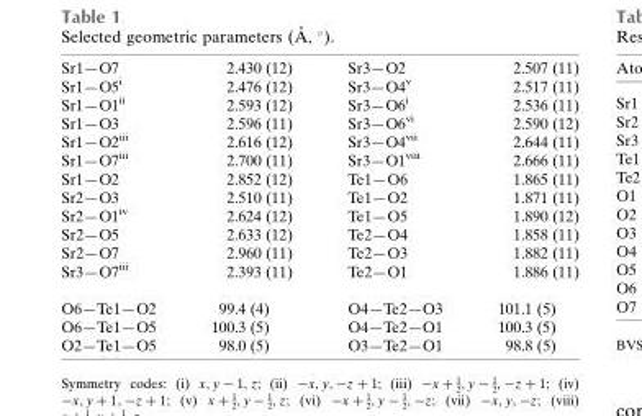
<table><tbody><tr><td>Sr1—O7</td><td>2.430 (12)</td><td>Sr3—O2</td><td>2.507 (11)</td></tr><tr><td>Sr1—O5<sup>i</sup></td><td>2.476 (12)</td><td>Sr3—O4<sup>v</sup></td><td>2.517 (11)</td></tr><tr><td>Sr1—O1<sup>ii</sup></td><td>2.593 (12)</td><td>Sr3—O6<sup>i</sup></td><td>2.536 (11)</td></tr><tr><td>Sr1—O3</td><td>2.596 (11)</td><td>Sr3—O6<sup>vi</sup></td><td>2.590 (12)</td></tr><tr><td>Sr1—O2<sup>iii</sup></td><td>2.616 (12)</td><td>Sr3—O4<sup>vii</sup></td><td>2.644 (11)</td></tr><tr><td>Sr1—O7<sup>iii</sup></td><td>2.700 (11)</td><td>Sr3—O1<sup>viii</sup></td><td>2.666 (11)</td></tr><tr><td>Sr1—O2</td><td>2.852 (12)</td><td>Te1—O6</td><td>1.865 (11)</td></tr><tr><td>Sr2—O3</td><td>2.510 (11)</td><td>Te1—O2</td><td>1.871 (11)</td></tr><tr><td>Sr2—O1<sup>iv</sup></td><td>2.624 (12)</td><td>Te1—O5</td><td>1.890 (12)</td></tr><tr><td>Sr2—O5</td><td>2.633 (12)</td><td>Te2—O4</td><td>1.858 (11)</td></tr><tr><td>Sr2—O7</td><td>2.960 (11)</td><td>Te2—O3</td><td>1.882 (11)</td></tr><tr><td>Sr3—O7<sup>iii</sup></td><td>2.393 (11)</td><td>Te2—O1</td><td>1.886 (11)</td></tr><tr><td>O6—Te1—O2</td><td>99.4 (4)</td><td>O4—Te2—O3</td><td>101.1 (5)</td></tr><tr><td>O6—Te1—O5</td><td>100.3 (5)</td><td>O4—Te2—O1</td><td>100.3 (5)</td></tr><tr><td>O2—Te1—O5</td><td>98.0 (5)</td><td>O3—Te2—O1</td><td>98.8 (5)</td></tr></tbody></table>